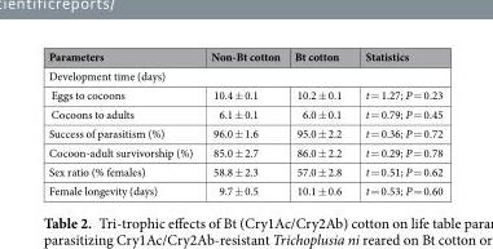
<table><thead><tr><td>Parameters</td><td>Non-Bt cotton</td><td>Bt cotton</td><td>Statistics</td></tr></thead><tbody><tr><td colspan="4">Development time (days)</td></tr><tr><td>Eggs to cocoons</td><td>10.4 ± 0.1</td><td>10.2 ± 0.1</td><td>t = 1.27; P = 0.23</td></tr><tr><td>Cocoons to adults</td><td>6.1 ± 0.1</td><td>6.0 ± 0.1</td><td>t = 0.79; P = 0.45</td></tr><tr><td>Success of parasitism (%)</td><td>96.0 ± 1.6</td><td>95.0 ± 2.2</td><td>t = 0.36; P = 0.72</td></tr><tr><td>Cocoon-adult survivorship (%)</td><td>85.0 ± 2.7</td><td>86.0 ± 2.2</td><td>t = 0.29; P = 0.78</td></tr><tr><td>Sex ratio (% females)</td><td>58.8 ± 2.3</td><td>57.0 ± 2.8</td><td>t = 0.51; P = 0.62</td></tr><tr><td>Female longevity (days)</td><td>9.7 ± 0.5</td><td>10.1 ± 0.6</td><td>t = 0.53; P = 0.60</td></tr></tbody></table>